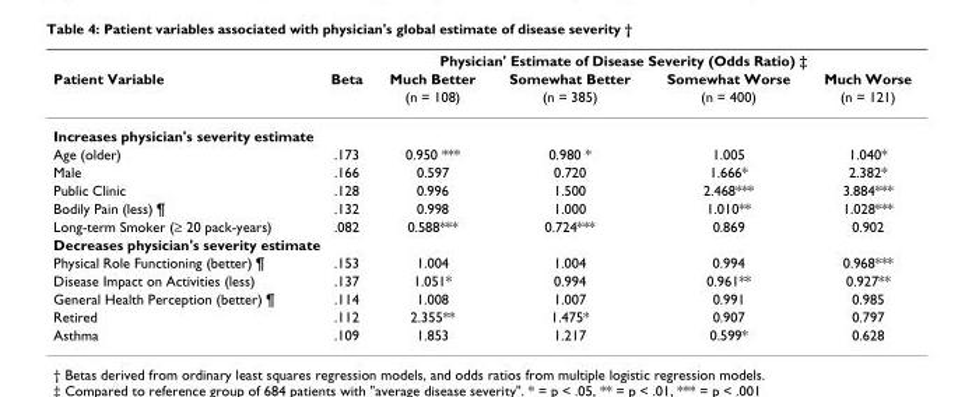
<table><thead><tr><td rowspan="3">Patient Variable</td><td colspan="5">Physician&#x27; Estimate of Disease Severity (Odds Ratio) ‡</td></tr><tr><td rowspan="2">Beta</td><td rowspan="2">Much Better (n = 108)</td><td rowspan="2">Somewhat Better (n = 385)</td><td rowspan="2">Somewhat Worse (n = 400)</td><td rowspan="2">Much Worse (n = 121)</td></tr><tr></tr></thead><tbody><tr><td colspan="6">Increases physician&#x27;s severity estimate</td></tr><tr><td>Age (older)</td><td>.173</td><td>0.950 ***</td><td>0.980 *</td><td>1.005</td><td>1.040*</td></tr><tr><td>Male</td><td>.166</td><td>0.597</td><td>0.720</td><td>1.666*</td><td>2.382*</td></tr><tr><td>Public Clinic</td><td>.128</td><td>0.996</td><td>1.500</td><td>2.468***</td><td>3.884***</td></tr><tr><td>Bodily Pain (less) ¶</td><td>.132</td><td>0.998</td><td>1.000</td><td>1.010**</td><td>1.028***</td></tr><tr><td>Long-term Smoker (≥ 20 pack-years)</td><td>.082</td><td>0.588***</td><td>0.724***</td><td>0.869</td><td>0.902</td></tr><tr><td colspan="6">Decreases physician&#x27;s severity estimate</td></tr><tr><td>Physical Role Functioning (better) ¶</td><td>.153</td><td>1.004</td><td>1.004</td><td>0.994</td><td>0.968***</td></tr><tr><td>Disease Impact on Activities (less)</td><td>.137</td><td>1.051*</td><td>0.994</td><td>0.961**</td><td>0.927**</td></tr><tr><td>General Health Perception (better) ¶</td><td>.114</td><td>1.008</td><td>1.007</td><td>0.991</td><td>0.985</td></tr><tr><td>Retired</td><td>.112</td><td>2.355**</td><td>1.475*</td><td>0.907</td><td>0.797</td></tr><tr><td>Asthma</td><td>.109</td><td>1.853</td><td>1.217</td><td>0.599*</td><td>0.628</td></tr></tbody></table>